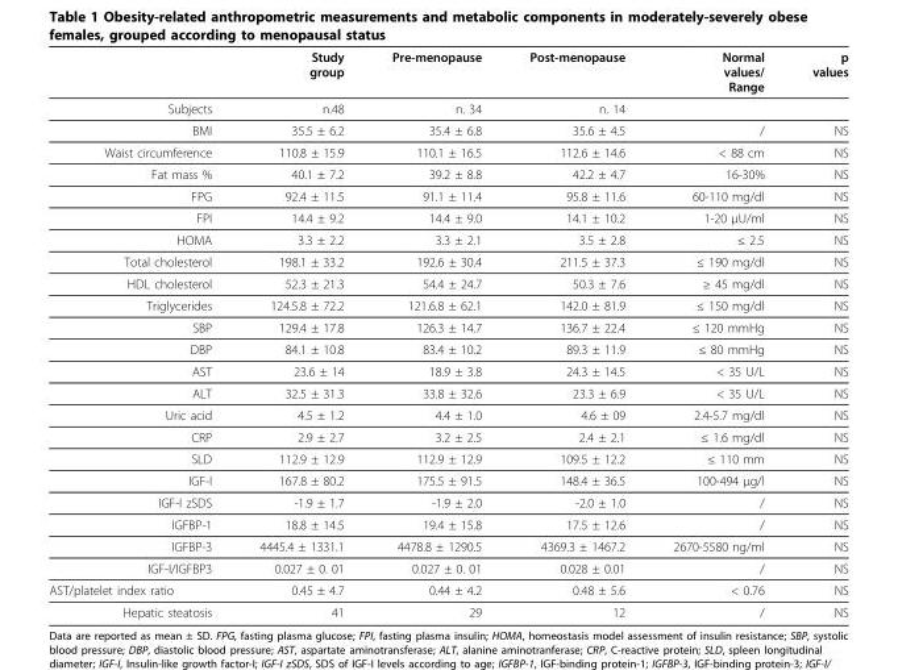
<table><thead><tr><td></td><td>Study group</td><td>Pre-menopause</td><td>Post-menopause</td><td>Normal values/ Range</td><td>p values</td></tr></thead><tbody><tr><td>Subjects</td><td>n.48</td><td>n. 34</td><td>n. 14</td><td></td><td></td></tr><tr><td>BMI</td><td>35.5 ± 6.2</td><td>35.4 ± 6.8</td><td>35.6 ± 4.5</td><td>/</td><td>NS</td></tr><tr><td>Waist circumference</td><td>110.8 ± 15.9</td><td>110.1 ± 16.5</td><td>112.6 ± 14.6</td><td>&lt; 88 cm</td><td>NS</td></tr><tr><td>Fat mass %</td><td>40.1 ± 7.2</td><td>39.2 ± 8.8</td><td>42.2 ± 4.7</td><td>16-30%</td><td>NS</td></tr><tr><td>FPG</td><td>92.4 ± 11.5</td><td>91.1 ± 11.4</td><td>95.8 ± 11.6</td><td>60-110 mg/dl</td><td>NS</td></tr><tr><td>FPI</td><td>14.4 ± 9.2</td><td>14.4 ± 9.0</td><td>14.1 ± 10.2</td><td>1-20 μU/ml</td><td>NS</td></tr><tr><td>HOMA</td><td>3.3 ± 2.2</td><td>3.3 ± 2.1</td><td>3.5 ± 2.8</td><td>≤ 2.5</td><td>NS</td></tr><tr><td>Total cholesterol</td><td>198.1 ± 33.2</td><td>192.6 ± 30.4</td><td>211.5 ± 37.3</td><td>≤ 190 mg/dl</td><td>NS</td></tr><tr><td>HDL cholesterol</td><td>52.3 ± 21.3</td><td>54.4 ± 24.7</td><td>50.3 ± 7.6</td><td>≥ 45 mg/dl</td><td>NS</td></tr><tr><td>Triglycerides</td><td>124.5.8 ± 72.2</td><td>121.6.8 ± 62.1</td><td>142.0 ± 81.9</td><td>≤ 150 mg/dl</td><td>NS</td></tr><tr><td>SBP</td><td>129.4 ± 17.8</td><td>126.3 ± 14.7</td><td>136.7 ± 22.4</td><td>≤ 120 mmHg</td><td>NS</td></tr><tr><td>DBP</td><td>84.1 ± 10.8</td><td>83.4 ± 10.2</td><td>89.3 ± 11.9</td><td>≤ 80 mmHg</td><td>NS</td></tr><tr><td>AST</td><td>23.6 ± 14</td><td>18.9 ± 3.8</td><td>24.3 ± 14.5</td><td>&lt; 35 U/L</td><td>NS</td></tr><tr><td>ALT</td><td>32.5 ± 31.3</td><td>33.8 ± 32.6</td><td>23.3 ± 6.9</td><td>&lt; 35 U/L</td><td>NS</td></tr><tr><td>Uric acid</td><td>4.5 ± 1.2</td><td>4.4 ± 1.0</td><td>4.6 ± 09</td><td>2.4-5.7 mg/dl</td><td>NS</td></tr><tr><td>CRP</td><td>2.9 ± 2.7</td><td>3.2 ± 2.5</td><td>2.4 ± 2.1</td><td>≤ 1.6 mg/dl</td><td>NS</td></tr><tr><td>SLD</td><td>112.9 ± 12.9</td><td>112.9 ± 12.9</td><td>109.5 ± 12.2</td><td>≤ 110 mm</td><td>NS</td></tr><tr><td>IGF-I</td><td>167.8 ± 80.2</td><td>175.5 ± 91.5</td><td>148.4 ± 36.5</td><td>100-494 μg/l</td><td>NS</td></tr><tr><td>IGF-I zSDS</td><td>-1.9 ± 1.7</td><td>-1.9 ± 2.0</td><td>-2.0 ± 1.0</td><td>/</td><td>NS</td></tr><tr><td>IGFBP-1</td><td>18.8 ± 14.5</td><td>19.4 ± 15.8</td><td>17.5 ± 12.6</td><td>/</td><td>NS</td></tr><tr><td>IGFBP-3</td><td>4445.4 ± 1331.1</td><td>4478.8 ± 1290.5</td><td>4369.3 ± 1467.2</td><td>2670-5580 ng/ml</td><td>NS</td></tr><tr><td>IGF-I/IGFBP3</td><td>0.027 ± 0. 01</td><td>0.027 ± 0. 01</td><td>0.028 ± 0.01</td><td>/</td><td>NS</td></tr><tr><td>AST/platelet index ratio</td><td>0.45 ± 4.7</td><td>0.44 ± 4.2</td><td>0.48 ± 5.6</td><td>&lt; 0.76</td><td>NS</td></tr><tr><td>Hepatic steatosis</td><td>41</td><td>29</td><td>12</td><td>/</td><td>NS</td></tr></tbody></table>